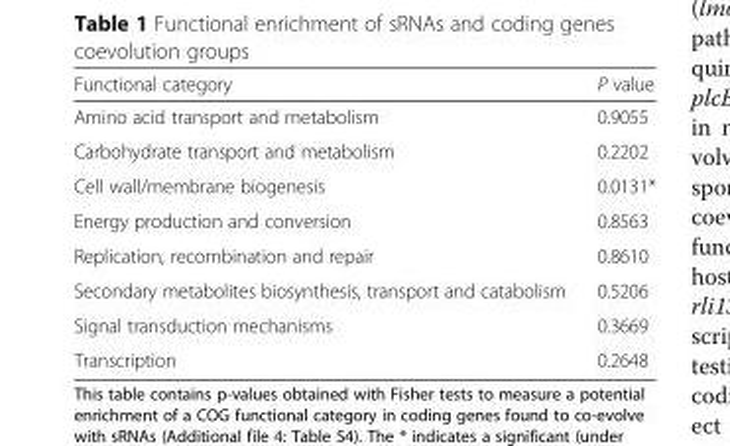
<table><thead><tr><td>Functional category</td><td>P value</td></tr></thead><tbody><tr><td>Amino acid transport and metabolism</td><td>0.9055</td></tr><tr><td>Carbohydrate transport and metabolism</td><td>0.2202</td></tr><tr><td>Cell wall/membrane biogenesis</td><td>0.0131*</td></tr><tr><td>Energy production and conversion</td><td>0.8563</td></tr><tr><td>Replication, recombination and repair</td><td>0.8610</td></tr><tr><td>Secondary metabolites biosynthesis, transport and catabolism</td><td>0.5206</td></tr><tr><td>Signal transduction mechanisms</td><td>0.3669</td></tr><tr><td>Transcription</td><td>0.2648</td></tr></tbody></table>